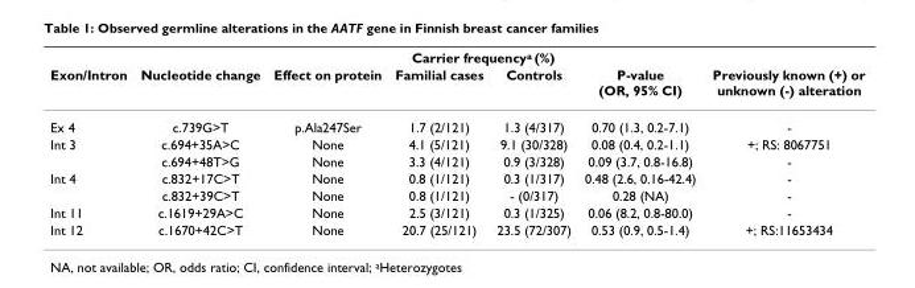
<table><thead><tr><td rowspan="2">Exon/Intron</td><td rowspan="2">Nucleotide change</td><td rowspan="2">Effect on protein</td><td colspan="2">Carrier frequency<sup>a</sup> (%)</td><td rowspan="2">P-value (OR, 95% CI)</td><td rowspan="2">Previously known (+) or unknown (-) alteration</td></tr><tr><td>Familial cases</td><td>Controls</td></tr></thead><tbody><tr><td>Ex 4</td><td>c.739G&gt;T</td><td>p.Ala247Ser</td><td>1.7 (2/121)</td><td>1.3 (4/317)</td><td>0.70 (1.3, 0.2-7.1)</td><td>-</td></tr><tr><td rowspan="2">Int 3</td><td>c.694+35A&gt;C</td><td>None</td><td>4.1 (5/121)</td><td>9.1 (30/328)</td><td>0.08 (0.4, 0.2-1.1)</td><td>+; RS: 8067751</td></tr><tr><td>c.694+48T&gt;G</td><td>None</td><td>3.3 (4/121)</td><td>0.9 (3/328)</td><td>0.09 (3.7, 0.8-16.8)</td><td>-</td></tr><tr><td rowspan="2">Int 4</td><td>c.832+17C&gt;T</td><td>None</td><td>0.8 (1/121)</td><td>0.3 (1/317)</td><td>0.48 (2.6, 0.16-42.4)</td><td>-</td></tr><tr><td>c.832+39C&gt;T</td><td>None</td><td>0.8 (1/121)</td><td>- (0/317)</td><td>0.28 (NA)</td><td>-</td></tr><tr><td>Int 11</td><td>c.1619+29A&gt;C</td><td>None</td><td>2.5 (3/121)</td><td>0.3 (1/325)</td><td>0.06 (8.2, 0.8-80.0)</td><td>-</td></tr><tr><td>Int 12</td><td>c.1670+42C&gt;T</td><td>None</td><td>20.7 (25/121)</td><td>23.5 (72/307)</td><td>0.53 (0.9, 0.5-1.4)</td><td>+; RS:11653434</td></tr></tbody></table>